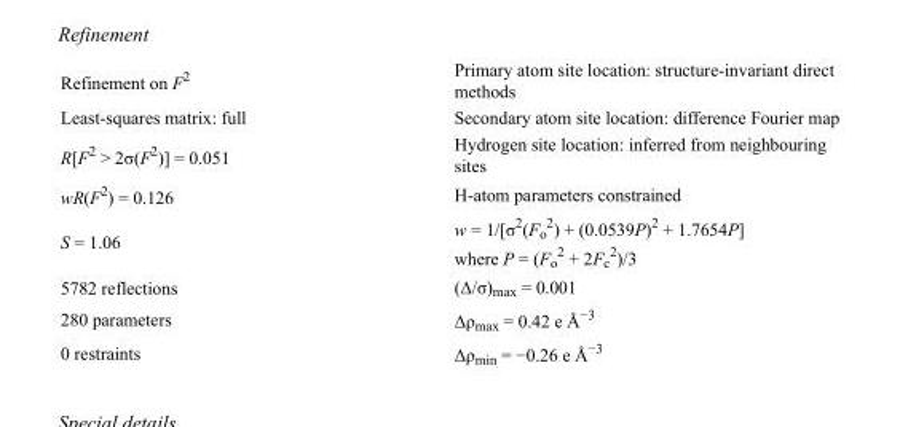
<table><tbody><tr><td>Refinement on F<sup>2</sup></td><td>Primary atom site location: structure-invariant direct methods</td></tr><tr><td>Least-squares matrix: full</td><td>Secondary atom site location: difference Fourier map</td></tr><tr><td>R[F<sup>2</sup> &gt; 2σ(F<sup>2</sup>)] = 0.051</td><td>Hydrogen site location: inferred from neighbouring sites</td></tr><tr><td>wR(F<sup>2</sup>) = 0.126</td><td>H-atom parameters constrained</td></tr><tr><td>S = 1.06</td><td>w = 1/[σ<sup>2</sup>(F<sub>o</sub> <sup>2</sup>) + (0.0539P)<sup>2</sup> + 1.7654P] where P = (F<sub>o</sub> <sup>2</sup> + 2F<sub>c</sub> <sup>2</sup>)/3</td></tr><tr><td>5782 reflections</td><td>(Δ/σ)<sub>max</sub> = 0.001</td></tr><tr><td>280 parameters</td><td>Δρ<sub>max</sub> = 0.42 e Å<sup>−3</sup></td></tr><tr><td>0 restraints</td><td>Δρ<sub>min</sub> = −0.26 e Å<sup>−3</sup></td></tr></tbody></table>